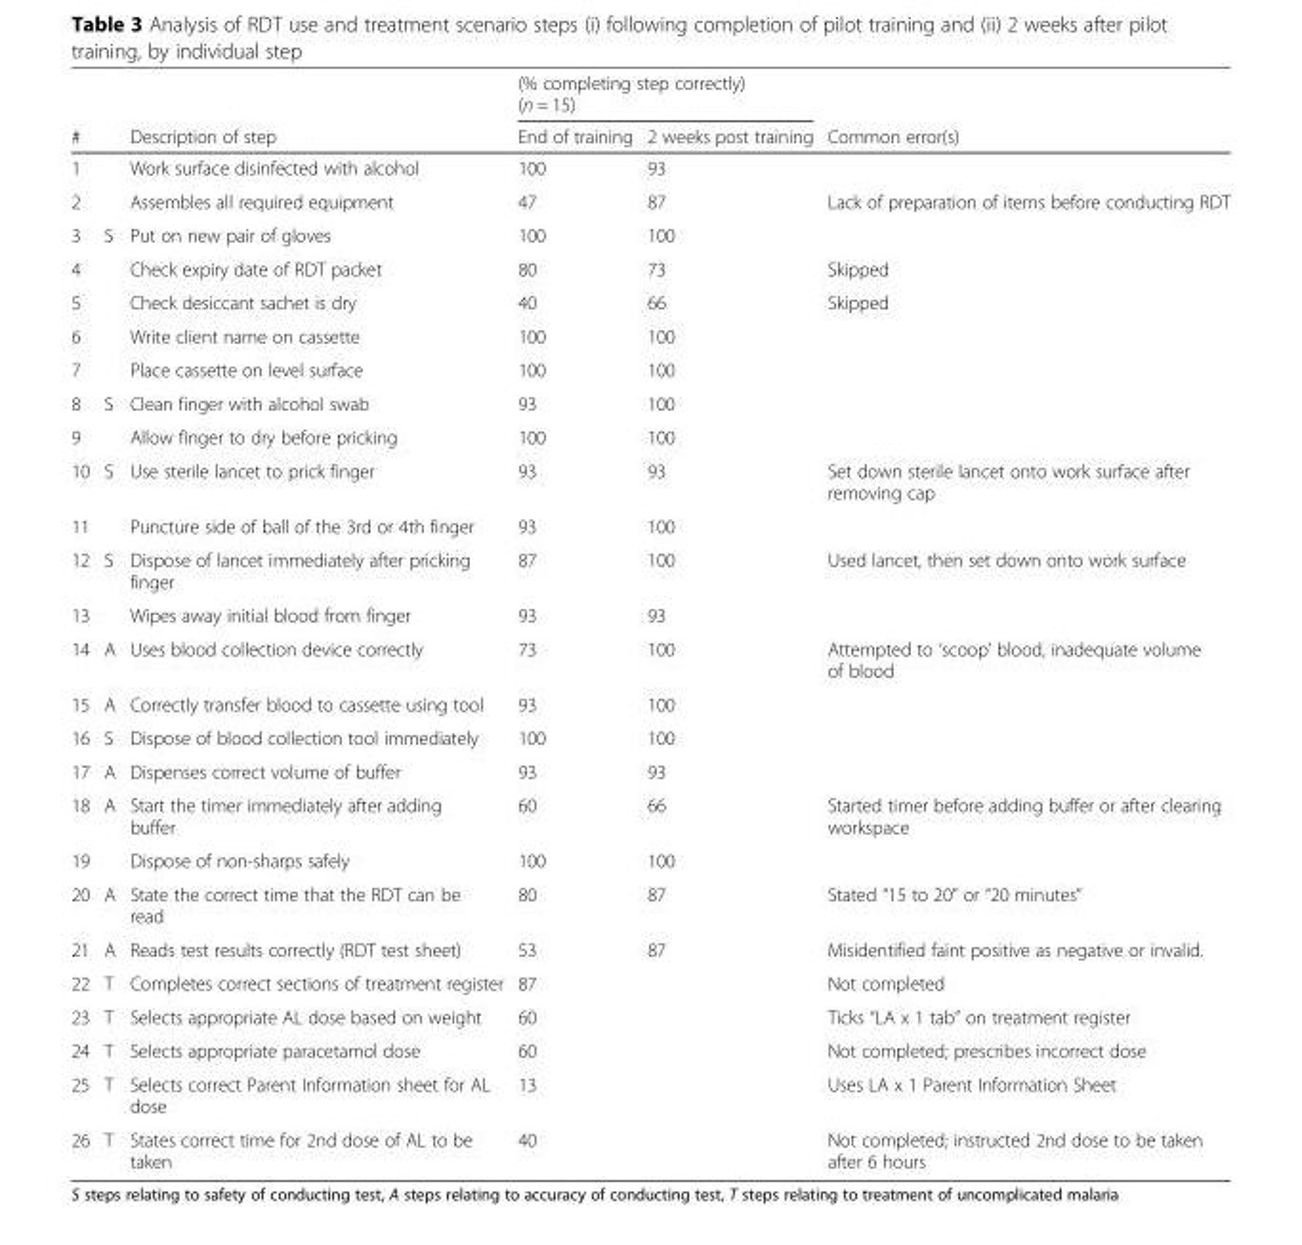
<table><thead><tr><td rowspan="2">#</td><td rowspan="2"></td><td rowspan="2">Description of step</td><td colspan="2">(% completing step correctly) (n = 15)</td><td rowspan="2">Common error(s)</td></tr><tr><td>End of training</td><td>2 weeks post training</td></tr></thead><tbody><tr><td>1</td><td></td><td>Work surface disinfected with alcohol</td><td>100</td><td>93</td><td></td></tr><tr><td>2</td><td></td><td>Assembles all required equipment</td><td>47</td><td>87</td><td>Lack of preparation of items before conducting RDT</td></tr><tr><td>3</td><td>S</td><td>Put on new pair of gloves</td><td>100</td><td>100</td><td></td></tr><tr><td>4</td><td></td><td>Check expiry date of RDT packet</td><td>80</td><td>73</td><td>Skipped</td></tr><tr><td>5</td><td></td><td>Check desiccant sachet is dry</td><td>40</td><td>66</td><td>Skipped</td></tr><tr><td>6</td><td></td><td>Write client name on cassette</td><td>100</td><td>100</td><td></td></tr><tr><td>7</td><td></td><td>Place cassette on level surface</td><td>100</td><td>100</td><td></td></tr><tr><td>8</td><td>S</td><td>Clean finger with alcohol swab</td><td>93</td><td>100</td><td></td></tr><tr><td>9</td><td></td><td>Allow finger to dry before pricking</td><td>100</td><td>100</td><td></td></tr><tr><td>10</td><td>S</td><td>Use sterile lancet to prick finger</td><td>93</td><td>93</td><td>Set down sterile lancet onto work surface after removing cap</td></tr><tr><td>11</td><td></td><td>Puncture side of ball of the 3rd or 4th finger</td><td>93</td><td>100</td><td></td></tr><tr><td>12</td><td>S</td><td>Dispose of lancet immediately after pricking finger</td><td>87</td><td>100</td><td>Used lancet, then set down onto work surface</td></tr><tr><td>13</td><td></td><td>Wipes away initial blood from finger</td><td>93</td><td>93</td><td></td></tr><tr><td>14</td><td>A</td><td>Uses blood collection device correctly</td><td>73</td><td>100</td><td>Attempted to ‘scoop’ blood, inadequate volume of blood</td></tr><tr><td>15</td><td>A</td><td>Correctly transfer blood to cassette using tool</td><td>93</td><td>100</td><td></td></tr><tr><td>16</td><td>S</td><td>Dispose of blood collection tool immediately</td><td>100</td><td>100</td><td></td></tr><tr><td>17</td><td>A</td><td>Dispenses correct volume of buffer</td><td>93</td><td>93</td><td></td></tr><tr><td>18</td><td>A</td><td>Start the timer immediately after adding buffer</td><td>60</td><td>66</td><td>Started timer before adding buffer or after clearing workspace</td></tr><tr><td>19</td><td></td><td>Dispose of non-sharps safely</td><td>100</td><td>100</td><td></td></tr><tr><td>20</td><td>A</td><td>State the correct time that the RDT can be read</td><td>80</td><td>87</td><td>Stated “15 to 20” or “20 minutes”</td></tr><tr><td>21</td><td>A</td><td>Reads test results correctly (RDT test sheet)</td><td>53</td><td>87</td><td>Misidentified faint positive as negative or invalid.</td></tr><tr><td>22</td><td>T</td><td>Completes correct sections of treatment register</td><td>87</td><td></td><td>Not completed</td></tr><tr><td>23</td><td>T</td><td>Selects appropriate AL dose based on weight</td><td>60</td><td></td><td>Ticks “LA x 1 tab” on treatment register</td></tr><tr><td>24</td><td>T</td><td>Selects appropriate paracetamol dose</td><td>60</td><td></td><td>Not completed; prescribes incorrect dose</td></tr><tr><td>25</td><td>T</td><td>Selects correct Parent Information sheet for AL dose</td><td>13</td><td></td><td>Uses LA x 1 Parent Information Sheet</td></tr><tr><td>26</td><td>T</td><td>States correct time for 2nd dose of AL to be taken</td><td>40</td><td></td><td>Not completed; instructed 2nd dose to be taken after 6 hours</td></tr></tbody></table>